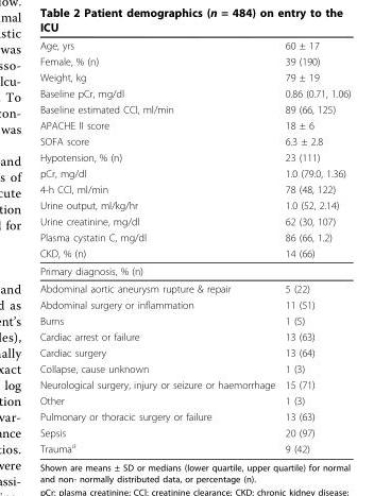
<table><thead><tr><td rowspan="14">Age, yrs Female, % (n) Weight, kg Baseline pCr, mg/dl Baseline estimated CCl, ml/min APACHE II score SOFA score Hypotension, % (n) pCr, mg/dl 4-h CCl, ml/min Urine output, ml/kg/hr Urine creatinine, mg/dl Plasma cystatin C, mg/dl CKD, % (n)</td><td rowspan="14">60 ± 17 39 (190) 79 ± 19 0.86 (0.71, 1.06) 89 (66, 125) 18 ± 6 6.3 ± 2.8 23 (111) 1.0 (79.0, 1.36) 78 (48, 122) 1.0 (52, 2.14) 62 (30, 107) 86 (66, 1.2) 14 (66)</td></tr><tr></tr><tr></tr><tr></tr><tr></tr><tr></tr><tr></tr><tr></tr><tr></tr><tr></tr><tr></tr><tr></tr><tr></tr><tr></tr></thead><tbody><tr><td colspan="2">Primary diagnosis, % (n)</td></tr><tr><td>Abdominal aortic aneurysm rupture &amp; repair</td><td>5 (22)</td></tr><tr><td>Abdominal surgery or inflammation</td><td>11 (51)</td></tr><tr><td>Burns</td><td>1 (5)</td></tr><tr><td>Cardiac arrest or failure</td><td>13 (63)</td></tr><tr><td>Cardiac surgery</td><td>13 (64)</td></tr><tr><td>Collapse, cause unknown</td><td>1 (3)</td></tr><tr><td>Neurological surgery, injury or seizure or haemorrhage</td><td>15 (71)</td></tr><tr><td>Other</td><td>1 (3)</td></tr><tr><td>Pulmonary or thoracic surgery or failure</td><td>13 (63)</td></tr><tr><td>Sepsis</td><td>20 (97)</td></tr><tr><td>Trauma<sup>a</sup></td><td>9 (42)</td></tr></tbody></table>